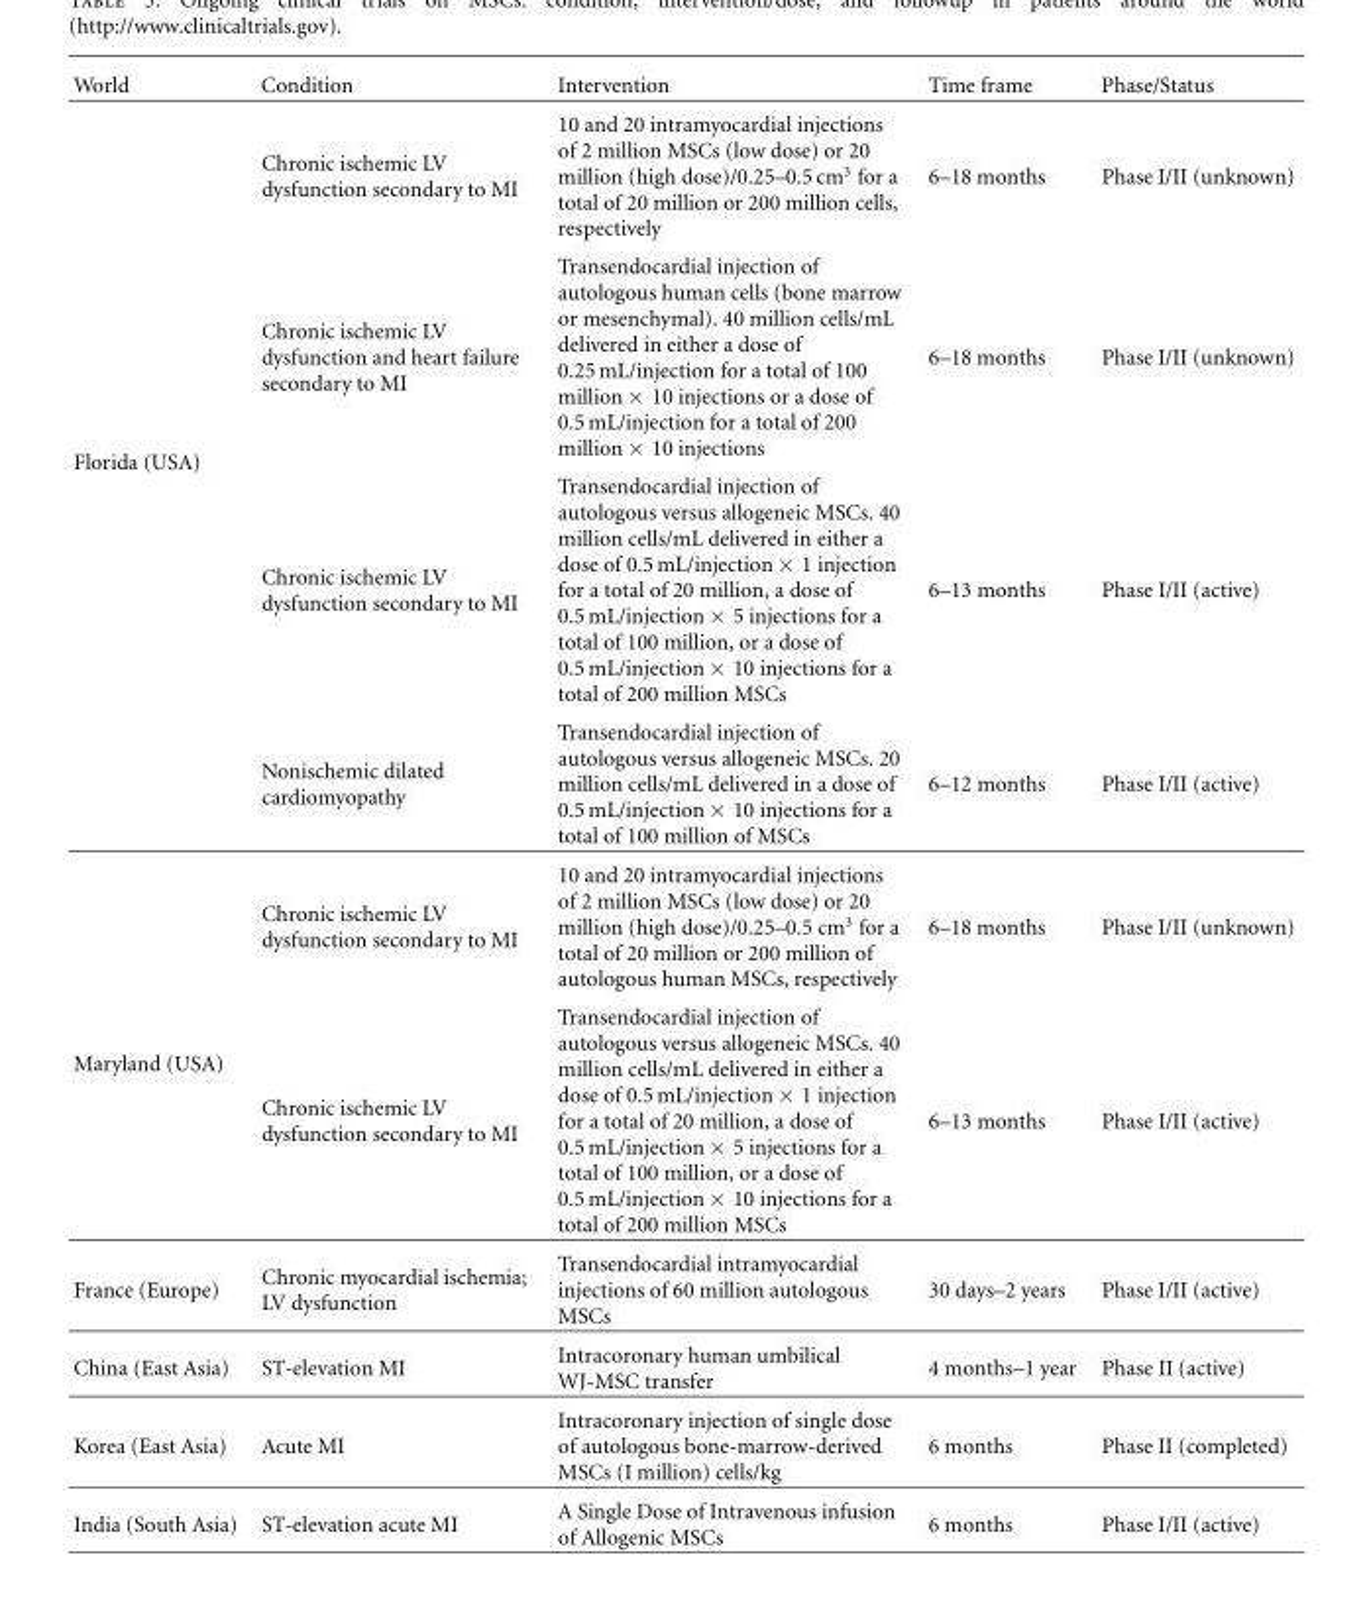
<table><thead><tr><td>World</td><td>Condition</td><td>Intervention</td><td>Time frame</td><td>Phase/Status</td></tr></thead><tbody><tr><td rowspan="4">Florida (USA)</td><td>Chronic ischemic LV dysfunction secondary to MI</td><td>10 and 20 intramyocardial injections of 2 million MSCs (low dose) or 20 million (high dose)/0.25–0.5 cm<sup>3</sup> for a total of 20 million or 200 million cells, respectively</td><td>6–18 months</td><td>Phase I/II (unknown)</td></tr><tr><td>Chronic ischemic LV dysfunction and heart failure secondary to MI</td><td>Transendocardial injection of autologous human cells (bone marrow or mesenchymal). 40 million cells/mL delivered in either a dose of 0.25 mL/injection for a total of 100 million × 10 injections or a dose of 0.5 mL/injection for a total of 200 million × 10 injections</td><td>6–18 months</td><td>Phase I/II (unknown)</td></tr><tr><td>Chronic ischemic LV dysfunction secondary to MI</td><td>Transendocardial injection of autologous versus allogeneic MSCs. 40 million cells/mL delivered in either a dose of 0.5 mL/injection × 1 injection for a total of 20 million, a dose of 0.5 mL/injection × 5 injections for a total of 100 million, or a dose of 0.5 mL/injection × 10 injections for a total of 200 million MSCs</td><td>6–13 months</td><td>Phase I/II (active)</td></tr><tr><td>Nonischemic dilated cardiomyopathy</td><td>Transendocardial injection of autologous versus allogeneic MSCs. 20 million cells/mL delivered in a dose of 0.5 mL/injection × 10 injections for a total of 100 million of MSCs</td><td>6–12 months</td><td>Phase I/II (active)</td></tr><tr><td rowspan="2">Maryland (USA)</td><td>Chronic ischemic LV dysfunction secondary to MI</td><td>10 and 20 intramyocardial injections of 2 million MSCs (low dose) or 20 million (high dose)/0.25–0.5 cm<sup>3</sup> for a total of 20 million or 200 million of autologous human MSCs, respectively</td><td>6–18 months</td><td>Phase I/II (unknown)</td></tr><tr><td>Chronic ischemic LV dysfunction secondary to MI</td><td>Transendocardial injection of autologous versus allogeneic MSCs. 40 million cells/mL delivered in either a dose of 0.5 mL/injection × 1 injection for a total of 20 million, a dose of 0.5 mL/injection × 5 injections for a total of 100 million, or a dose of 0.5 mL/injection × 10 injections for a total of 200 million MSCs</td><td>6–13 months</td><td>Phase I/II (active)</td></tr><tr><td>France (Europe)</td><td>Chronic myocardial ischemia; LV dysfunction</td><td>Transendocardial intramyocardial injections of 60 million autologous MSCs</td><td>30 days–2 years</td><td>Phase I/II (active)</td></tr><tr><td>China (East Asia)</td><td>ST-elevation MI</td><td>Intracoronary human umbilical WJ-MSC transfer</td><td>4 months–1 year</td><td>Phase II (active)</td></tr><tr><td>Korea (East Asia)</td><td>Acute MI</td><td>Intracoronary injection of single dose of autologous bone-marrow-derived MSCs (I million) cells/kg</td><td>6 months</td><td>Phase II (completed)</td></tr><tr><td>India (South Asia)</td><td>ST-elevation acute MI</td><td>A Single Dose of Intravenous infusion of Allogenic MSCs</td><td>6 months</td><td>Phase I/II (active)</td></tr></tbody></table>